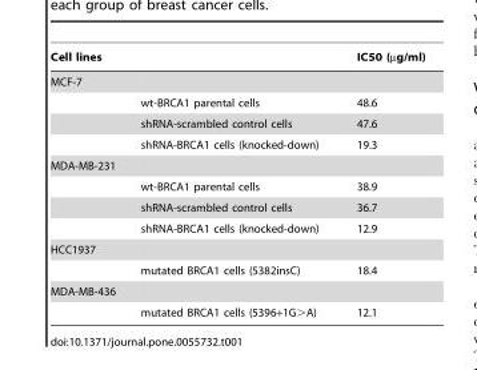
<table><thead><tr><td colspan="2">Cell lines</td><td rowspan="2">IC50 (µg/ml)</td></tr><tr><td>MCF-7</td><td></td></tr></thead><tbody><tr><td></td><td>wt-BRCA1 parental cells</td><td>48.6</td></tr><tr><td></td><td>shRNA-scrambled control cells</td><td>47.6</td></tr><tr><td></td><td>shRNA-BRCA1 cells (knocked-down)</td><td>19.3</td></tr><tr><td colspan="3">MDA-MB-231</td></tr><tr><td></td><td>wt-BRCA1 parental cells</td><td>38.9</td></tr><tr><td></td><td>shRNA-scrambled control cells</td><td>36.7</td></tr><tr><td></td><td>shRNA-BRCA1 cells (knocked-down)</td><td>12.9</td></tr><tr><td colspan="3">HCC1937</td></tr><tr><td></td><td>mutated BRCA1 cells (5382insC)</td><td>18.4</td></tr><tr><td colspan="3">MDA-MB-436</td></tr><tr><td></td><td>mutated BRCA1 cells (5396+1G&gt;A)</td><td>12.1</td></tr></tbody></table>